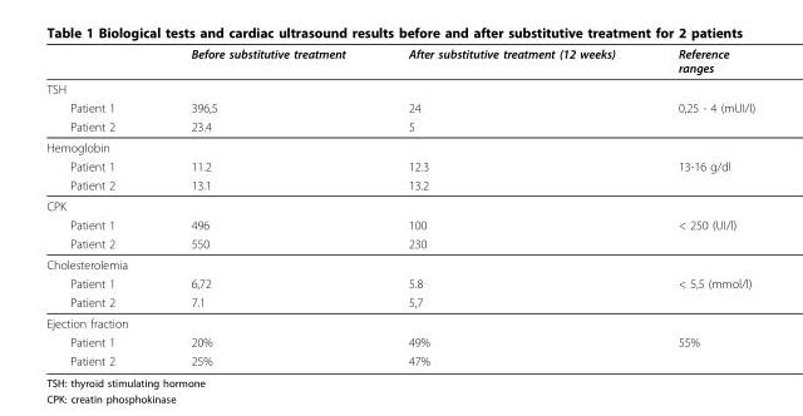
<table><thead><tr><td></td><td>Before substitutive treatment</td><td>After substitutive treatment (12 weeks)</td><td>Reference ranges</td></tr></thead><tbody><tr><td colspan="4">TSH</td></tr><tr><td>Patient 1</td><td>396,5</td><td>24</td><td>0,25 - 4 (mUI/l)</td></tr><tr><td>Patient 2</td><td>23.4</td><td>5</td><td></td></tr><tr><td colspan="4">Hemoglobin</td></tr><tr><td>Patient 1</td><td>11.2</td><td>12.3</td><td>13-16 g/dl</td></tr><tr><td>Patient 2</td><td>13.1</td><td>13.2</td><td></td></tr><tr><td colspan="4">CPK</td></tr><tr><td>Patient 1</td><td>496</td><td>100</td><td>&lt; 250 (UI/l)</td></tr><tr><td>Patient 2</td><td>550</td><td>230</td><td></td></tr><tr><td colspan="4">Cholesterolemia</td></tr><tr><td>Patient 1</td><td>6,72</td><td>5.8</td><td>&lt; 5,5 (mmol/l)</td></tr><tr><td>Patient 2</td><td>7.1</td><td>5,7</td><td></td></tr><tr><td colspan="4">Ejection fraction</td></tr><tr><td>Patient 1</td><td>20%</td><td>49%</td><td>55%</td></tr><tr><td>Patient 2</td><td>25%</td><td>47%</td><td></td></tr></tbody></table>